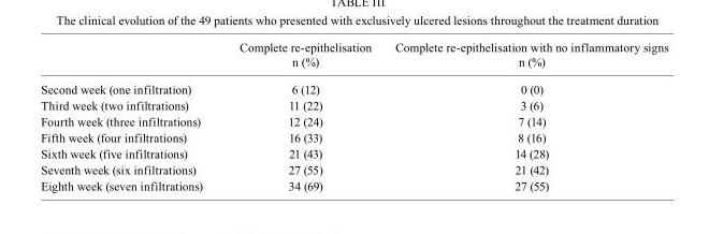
<table><thead><tr><td></td><td>Complete re-epithelisation n (%)</td><td>Complete re-epithelisation with no inflammatory signs n (%)</td></tr></thead><tbody><tr><td>Second week (one infiltration)</td><td>6 (12)</td><td>0 (0)</td></tr><tr><td>Third week (two infiltrations)</td><td>11 (22)</td><td>3 (6)</td></tr><tr><td>Fourth week (three infiltrations)</td><td>12 (24)</td><td>7 (14)</td></tr><tr><td>Fifth week (four infiltrations)</td><td>16 (33)</td><td>8 (16)</td></tr><tr><td>Sixth week (five infiltrations)</td><td>21 (43)</td><td>14 (28)</td></tr><tr><td>Seventh week (six infiltrations)</td><td>27 (55)</td><td>21 (42)</td></tr><tr><td>Eighth week (seven infiltrations)</td><td>34 (69)</td><td>27 (55)</td></tr></tbody></table>